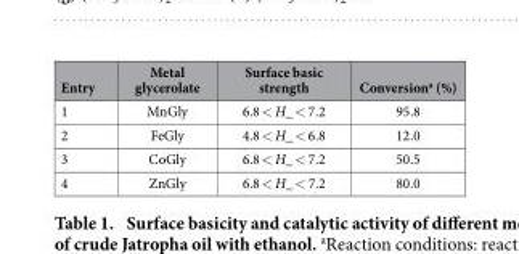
<table><thead><tr><td>Entry</td><td>Metal glycerolate</td><td>Surface basic strength</td><td>Conversion<sup>a</sup> (%)</td></tr></thead><tbody><tr><td>1</td><td>MnGly</td><td>6.8 &lt; H_ &lt; 7.2</td><td>95.8</td></tr><tr><td>2</td><td>FeGly</td><td>4.8 &lt; H_ &lt; 6.8</td><td>12.0</td></tr><tr><td>3</td><td>CoGly</td><td>6.8 &lt; H_ &lt; 7.2</td><td>50.5</td></tr><tr><td>4</td><td>ZnGly</td><td>6.8 &lt; H_ &lt; 7.2</td><td>80.0</td></tr></tbody></table>